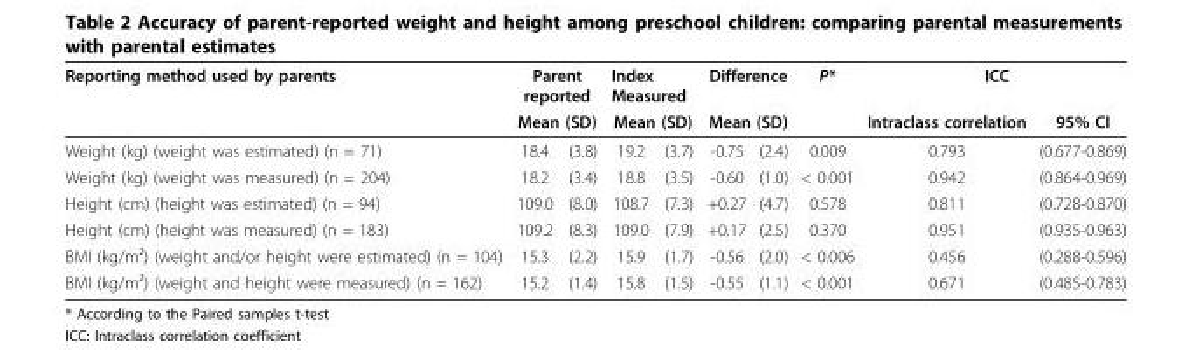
<table><thead><tr><td rowspan="3">Reporting method used by parents Weight (kg) (weight was estimated) (n = 71)</td><td rowspan="2" colspan="2">Parent reported Mean (SD)</td><td rowspan="2" colspan="2">Index Measured Mean (SD)</td><td rowspan="2" colspan="2">Difference Mean (SD)</td><td rowspan="3">P* 0.009</td><td colspan="2">ICC</td></tr><tr><td rowspan="2">Intraclass correlation 0.793</td><td rowspan="2">95% CI (0.677-0.869)</td></tr><tr><td>18.4</td><td>(3.8)</td><td>19.2</td><td>(3.7)</td><td>-0.75</td><td>(2.4)</td></tr></thead><tbody><tr><td>Weight (kg) (weight was measured) (n = 204)</td><td>18.2</td><td>(3.4)</td><td>18.8</td><td>(3.5)</td><td>-0.60</td><td>(1.0)</td><td>&lt; 0.001</td><td>0.942</td><td>(0.864-0.969)</td></tr><tr><td>Height (cm) (height was estimated) (n = 94)</td><td>109.0</td><td>(8.0)</td><td>108.7</td><td>(7.3)</td><td>+0.27</td><td>(4.7)</td><td>0.578</td><td>0.811</td><td>(0.728-0.870)</td></tr><tr><td>Height (cm) (height was measured) (n = 183)</td><td>109.2</td><td>(8.3)</td><td>109.0</td><td>(7.9)</td><td>+0.17</td><td>(2.5)</td><td>0.370</td><td>0.951</td><td>(0.935-0.963)</td></tr><tr><td>BMI (kg/m²) (weight and/or height were estimated) (n = 104)</td><td>15.3</td><td>(2.2)</td><td>15.9</td><td>(1.7)</td><td>-0.56</td><td>(2.0)</td><td>&lt; 0.006</td><td>0.456</td><td>(0.288-0.596)</td></tr><tr><td>BMI (kg/m²) (weight and height were measured) (n = 162)</td><td>15.2</td><td>(1.4)</td><td>15.8</td><td>(1.5)</td><td>-0.55</td><td>(1.1)</td><td>&lt; 0.001</td><td>0.671</td><td>(0.485-0.783)</td></tr></tbody></table>